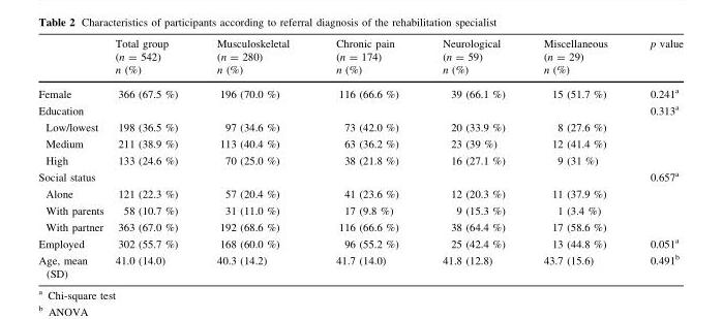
<table><thead><tr><td rowspan="2"></td><td rowspan="2">Total group (n = 542) n (%)</td><td rowspan="2">Musculoskeletal (n = 280) n (%)</td><td rowspan="2">Chronic pain (n = 174) n (%)</td><td rowspan="2">Neurological (n = 59) n (%)</td><td rowspan="2">Miscellaneous (n = 29) n (%)</td><td rowspan="2">p value</td></tr><tr></tr></thead><tbody><tr><td>Female</td><td>366 (67.5 %)</td><td>196 (70.0 %)</td><td>116 (66.6 %)</td><td>39 (66.1 %)</td><td>15 (51.7 %)</td><td>0.241<sup>a</sup></td></tr><tr><td>Education</td><td></td><td></td><td></td><td></td><td></td><td>0.313<sup>a</sup></td></tr><tr><td>Low/lowest</td><td>198 (36.5 %)</td><td>97 (34.6 %)</td><td>73 (42.0 %)</td><td>20 (33.9 %)</td><td>8 (27.6 %)</td><td></td></tr><tr><td>Medium</td><td>211 (38.9 %)</td><td>113 (40.4 %)</td><td>63 (36.2 %)</td><td>23 (39 %)</td><td>12 (41.4 %)</td><td></td></tr><tr><td>High</td><td>133 (24.6 %)</td><td>70 (25.0 %)</td><td>38 (21.8 %)</td><td>16 (27.1 %)</td><td>9 (31 %)</td><td></td></tr><tr><td>Social status</td><td></td><td></td><td></td><td></td><td></td><td>0.657<sup>a</sup></td></tr><tr><td>Alone</td><td>121 (22.3 %)</td><td>57 (20.4 %)</td><td>41 (23.6 %)</td><td>12 (20.3 %)</td><td>11 (37.9 %)</td><td></td></tr><tr><td>With parents</td><td>58 (10.7 %)</td><td>31 (11.0 %)</td><td>17 (9.8 %)</td><td>9 (15.3 %)</td><td>1 (3.4 %)</td><td></td></tr><tr><td>With partner</td><td>363 (67.0 %)</td><td>192 (68.6 %)</td><td>116 (66.6 %)</td><td>38 (64.4 %)</td><td>17 (58.6 %)</td><td></td></tr><tr><td>Employed</td><td>302 (55.7 %)</td><td>168 (60.0 %)</td><td>96 (55.2 %)</td><td>25 (42.4 %)</td><td>13 (44.8 %)</td><td>0.051<sup>a</sup></td></tr><tr><td>Age, mean (SD)</td><td>41.0 (14.0)</td><td>40.3 (14.2)</td><td>41.7 (14.0)</td><td>41.8 (12.8)</td><td>43.7 (15.6)</td><td>0.491<sup>b</sup></td></tr></tbody></table>